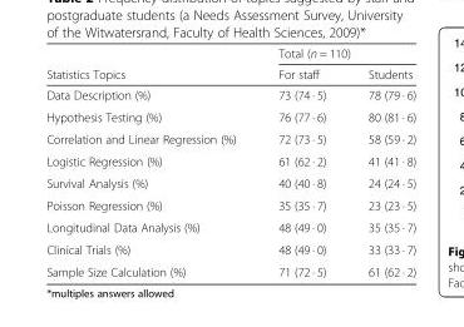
<table><thead><tr><td rowspan="2">Statistics Topics</td><td colspan="2">Total (n = 110)</td></tr><tr><td>For staff</td><td>Students</td></tr></thead><tbody><tr><td>Data Description (%)</td><td>73 (74 · 5)</td><td>78 (79 · 6)</td></tr><tr><td>Hypothesis Testing (%)</td><td>76 (77 · 6)</td><td>80 (81 · 6)</td></tr><tr><td>Correlation and Linear Regression (%)</td><td>72 (73 · 5)</td><td>58 (59 · 2)</td></tr><tr><td>Logistic Regression (%)</td><td>61 (62 · 2)</td><td>41 (41 · 8)</td></tr><tr><td>Survival Analysis (%)</td><td>40 (40 · 8)</td><td>24 (24 · 5)</td></tr><tr><td>Poisson Regression (%)</td><td>35 (35 · 7)</td><td>23 (23 · 5)</td></tr><tr><td>Longitudinal Data Analysis (%)</td><td>48 (49 · 0)</td><td>35 (35 · 7)</td></tr><tr><td>Clinical Trials (%)</td><td>48 (49 · 0)</td><td>33 (33 · 7)</td></tr><tr><td>Sample Size Calculation (%)</td><td>71 (72 · 5)</td><td>61 (62 · 2)</td></tr></tbody></table>